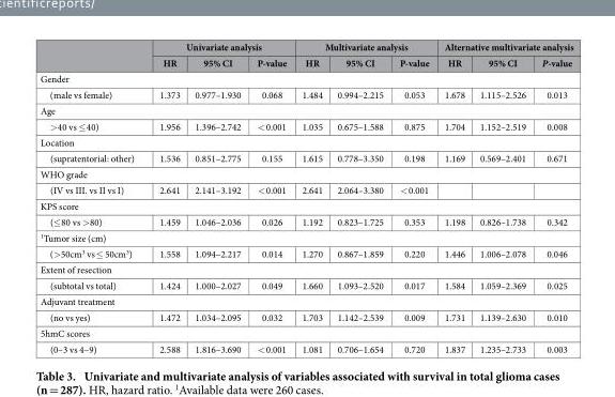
<table><thead><tr><td rowspan="2"></td><td colspan="3">Univariate analysis</td><td colspan="3">Multivariate analysis</td><td colspan="3">Alternative multivariate analysis</td></tr><tr><td>HR</td><td>95% CI</td><td>P-value</td><td>HR</td><td>95% CI</td><td>P-value</td><td>HR</td><td>95% CI</td><td>P-value</td></tr></thead><tbody><tr><td colspan="10">Gender</td></tr><tr><td>(male vs female)</td><td>1.373</td><td>0.977–1.930</td><td>0.068</td><td>1.484</td><td>0.994–2.215</td><td>0.053</td><td>1.678</td><td>1.115–2.526</td><td>0.013</td></tr><tr><td colspan="10">Age</td></tr><tr><td>&gt;40 vs ≤ 40)</td><td>1.956</td><td>1.396–2.742</td><td>&lt; 0.001</td><td>1.035</td><td>0.675–1.588</td><td>0.875</td><td>1.704</td><td>1.152–2.519</td><td>0.008</td></tr><tr><td colspan="10">Location</td></tr><tr><td>(supratentorial: other)</td><td>1.536</td><td>0.851–2.775</td><td>0.155</td><td>1.615</td><td>0.778–3.350</td><td>0.198</td><td>1.169</td><td>0.569–2.401</td><td>0.671</td></tr><tr><td colspan="10">WHO grade</td></tr><tr><td>(IV vs III. vs II vs I)</td><td>2.641</td><td>2.141–3.192</td><td>&lt; 0.001</td><td>2.641</td><td>2.064–3.380</td><td>&lt; 0.001</td><td></td><td></td><td></td></tr><tr><td colspan="10">KPS score</td></tr><tr><td>(≤ 80 vs &gt;80)</td><td>1.459</td><td>1.046–2.036</td><td>0.026</td><td>1.192</td><td>0.823–1.725</td><td>0.353</td><td>1.198</td><td>0.826–1.738</td><td>0.342</td></tr><tr><td colspan="10"><sup>1</sup>Tumor size (cm)</td></tr><tr><td>(&gt;50cm<sup>3</sup> vs ≤ 50cm<sup>3</sup>)</td><td>1.558</td><td>1.094–2.217</td><td>0.014</td><td>1.270</td><td>0.867–1.859</td><td>0.220</td><td>1.446</td><td>1.006–2.078</td><td>0.046</td></tr><tr><td colspan="10">Extent of resection</td></tr><tr><td>(subtotal vs total)</td><td>1.424</td><td>1.000–2.027</td><td>0.049</td><td>1.660</td><td>1.093–2.520</td><td>0.017</td><td>1.584</td><td>1.059–2.369</td><td>0.025</td></tr><tr><td colspan="10">Adjuvant treatment</td></tr><tr><td>(no vs yes)</td><td>1.472</td><td>1.034–2.095</td><td>0.032</td><td>1.703</td><td>1.142–2.539</td><td>0.009</td><td>1.731</td><td>1.139–2.630</td><td>0.010</td></tr><tr><td colspan="10">5hmC scores</td></tr><tr><td>(0–3 vs 4–9)</td><td>2.588</td><td>1.816–3.690</td><td>&lt; 0.001</td><td>1.081</td><td>0.706–1.654</td><td>0.720</td><td>1.837</td><td>1.235–2.733</td><td>0.003</td></tr></tbody></table>